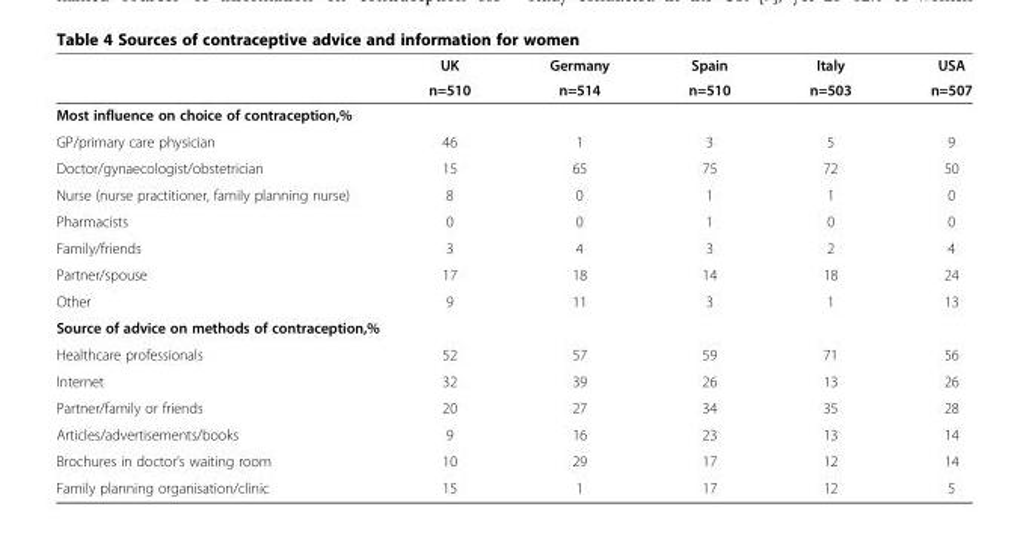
<table><thead><tr><td rowspan="2"></td><td rowspan="2">UK n=510</td><td rowspan="2">Germany n=514</td><td rowspan="2">Spain n=510</td><td rowspan="2">Italy n=503</td><td rowspan="2">USA n=507</td></tr><tr></tr></thead><tbody><tr><td colspan="6">Most influence on choice of contraception,%</td></tr><tr><td>GP/primary care physician</td><td>46</td><td>1</td><td>3</td><td>5</td><td>9</td></tr><tr><td>Doctor/gynaecologist/obstetrician</td><td>15</td><td>65</td><td>75</td><td>72</td><td>50</td></tr><tr><td>Nurse (nurse practitioner, family planning nurse)</td><td>8</td><td>0</td><td>1</td><td>1</td><td>0</td></tr><tr><td>Pharmacists</td><td>0</td><td>0</td><td>1</td><td>0</td><td>0</td></tr><tr><td>Family/friends</td><td>3</td><td>4</td><td>3</td><td>2</td><td>4</td></tr><tr><td>Partner/spouse</td><td>17</td><td>18</td><td>14</td><td>18</td><td>24</td></tr><tr><td>Other</td><td>9</td><td>11</td><td>3</td><td>1</td><td>13</td></tr><tr><td colspan="6">Source of advice on methods of contraception,%</td></tr><tr><td>Healthcare professionals</td><td>52</td><td>57</td><td>59</td><td>71</td><td>56</td></tr><tr><td>Internet</td><td>32</td><td>39</td><td>26</td><td>13</td><td>26</td></tr><tr><td>Partner/family or friends</td><td>20</td><td>27</td><td>34</td><td>35</td><td>28</td></tr><tr><td>Articles/advertisements/books</td><td>9</td><td>16</td><td>23</td><td>13</td><td>14</td></tr><tr><td>Brochures in doctor’s waiting room</td><td>10</td><td>29</td><td>17</td><td>12</td><td>14</td></tr><tr><td>Family planning organisation/clinic</td><td>15</td><td>1</td><td>17</td><td>12</td><td>5</td></tr></tbody></table>